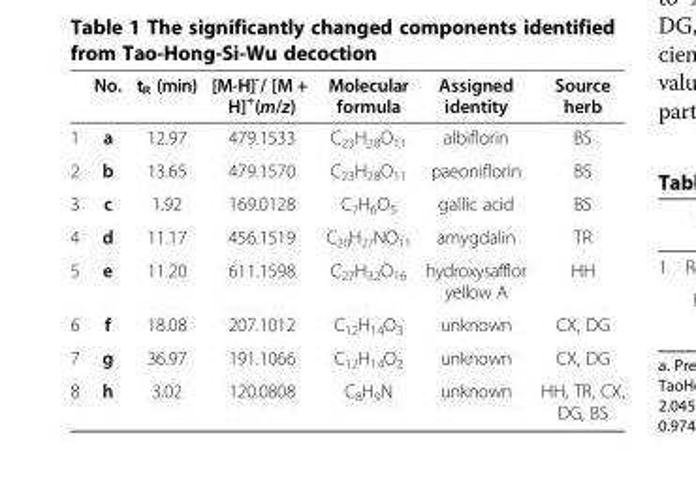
<table><thead><tr><td></td><td>No.</td><td>t<sub>R</sub> (min)</td><td>[M-H]<sup>-</sup>/ [M + H]<sup>+</sup>(m/z)</td><td>Molecular formula</td><td>Assigned identity</td><td>Source herb</td></tr></thead><tbody><tr><td>1</td><td>a</td><td>12.97</td><td>479.1533</td><td>C<sub>23</sub>H<sub>28</sub>O<sub>11</sub></td><td>albiflorin</td><td>BS</td></tr><tr><td>2</td><td>b</td><td>13.65</td><td>479.1570</td><td>C<sub>23</sub>H<sub>28</sub>O<sub>11</sub></td><td>paeoniflorin</td><td>BS</td></tr><tr><td>3</td><td>c</td><td>1.92</td><td>169.0128</td><td>C<sub>7</sub>H<sub>6</sub>O<sub>5</sub></td><td>gallic acid</td><td>BS</td></tr><tr><td>4</td><td>d</td><td>11.17</td><td>456.1519</td><td>C<sub>20</sub>H<sub>27</sub>NO<sub>11</sub></td><td>amygdalin</td><td>TR</td></tr><tr><td>5</td><td>e</td><td>11.20</td><td>611.1598</td><td>C<sub>27</sub>H<sub>32</sub>O<sub>16</sub></td><td>hydroxysafflor yellow A</td><td>HH</td></tr><tr><td>6</td><td>f</td><td>18.08</td><td>207.1012</td><td>C<sub>12</sub>H<sub>14</sub>O<sub>3</sub></td><td>unknown</td><td>CX, DG</td></tr><tr><td>7</td><td>g</td><td>36.97</td><td>191.1066</td><td>C<sub>12</sub>H<sub>14</sub>O<sub>2</sub></td><td>unknown</td><td>CX, DG</td></tr><tr><td>8</td><td>h</td><td>3.02</td><td>120.0808</td><td>C<sub>8</sub>H<sub>9</sub>N</td><td>unknown</td><td>HH, TR, CX, DG, BS</td></tr></tbody></table>